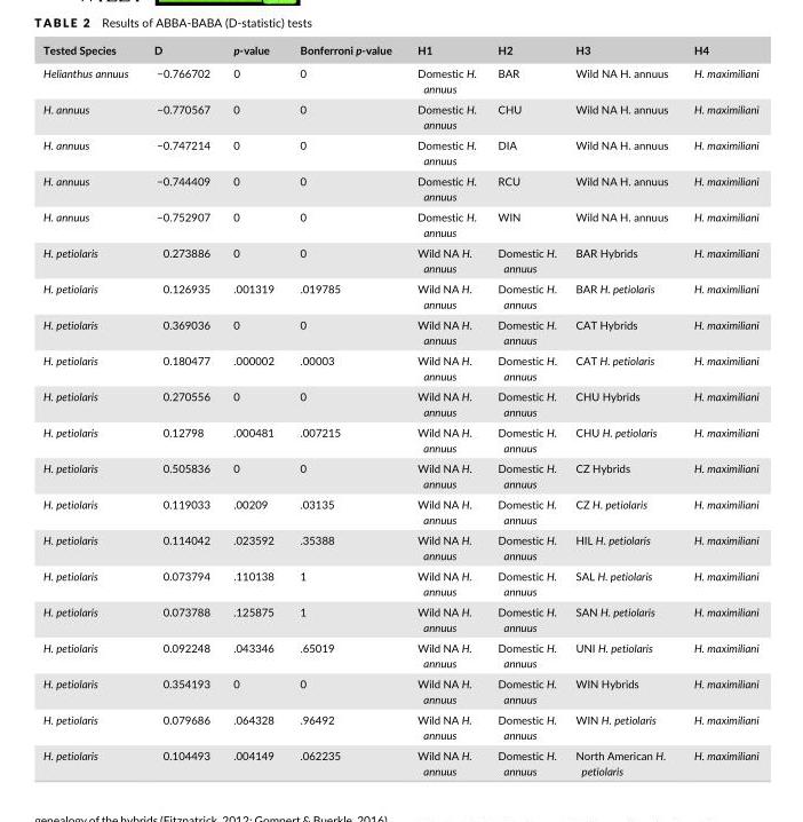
<table><thead><tr><td>Tested Species</td><td>D</td><td>p- value</td><td>Bonferroni p- value</td><td>H1</td><td>H2</td><td>H3</td><td>H4</td></tr></thead><tbody><tr><td>Helianthus annuus</td><td>−0.766702</td><td>0</td><td>0</td><td>Domestic H. annuus</td><td>BAR</td><td>Wild NA H. annuus</td><td>H. maximiliani</td></tr><tr><td>H. annuus</td><td>−0.770567</td><td>0</td><td>0</td><td>Domestic H. annuus</td><td>CHU</td><td>Wild NA H. annuus</td><td>H. maximiliani</td></tr><tr><td>H. annuus</td><td>−0.747214</td><td>0</td><td>0</td><td>Domestic H. annuus</td><td>DIA</td><td>Wild NA H. annuus</td><td>H. maximiliani</td></tr><tr><td>H. annuus</td><td>−0.744409</td><td>0</td><td>0</td><td>Domestic H. annuus</td><td>RCU</td><td>Wild NA H. annuus</td><td>H. maximiliani</td></tr><tr><td>H. annuus</td><td>−0.752907</td><td>0</td><td>0</td><td>Domestic H. annuus</td><td>WIN</td><td>Wild NA H. annuus</td><td>H. maximiliani</td></tr><tr><td>H. petiolaris</td><td>0.273886</td><td>0</td><td>0</td><td>Wild NA H. annuus</td><td>Domestic H. annuus</td><td>BAR Hybrids</td><td>H. maximiliani</td></tr><tr><td>H. petiolaris</td><td>0.126935</td><td>.001319</td><td>.019785</td><td>Wild NA H. annuus</td><td>Domestic H. annuus</td><td>BAR H. petiolaris</td><td>H. maximiliani</td></tr><tr><td>H. petiolaris</td><td>0.369036</td><td>0</td><td>0</td><td>Wild NA H. annuus</td><td>Domestic H. annuus</td><td>CAT Hybrids</td><td>H. maximiliani</td></tr><tr><td>H. petiolaris</td><td>0.180477</td><td>.000002</td><td>.00003</td><td>Wild NA H. annuus</td><td>Domestic H. annuus</td><td>CAT H. petiolaris</td><td>H. maximiliani</td></tr><tr><td>H. petiolaris</td><td>0.270556</td><td>0</td><td>0</td><td>Wild NA H. annuus</td><td>Domestic H. annuus</td><td>CHU Hybrids</td><td>H. maximiliani</td></tr><tr><td>H. petiolaris</td><td>0.12798</td><td>.000481</td><td>.007215</td><td>Wild NA H. annuus</td><td>Domestic H. annuus</td><td>CHU H. petiolaris</td><td>H. maximiliani</td></tr><tr><td>H. petiolaris</td><td>0.505836</td><td>0</td><td>0</td><td>Wild NA H. annuus</td><td>Domestic H. annuus</td><td>CZ Hybrids</td><td>H. maximiliani</td></tr><tr><td>H. petiolaris</td><td>0.119033</td><td>.00209</td><td>.03135</td><td>Wild NA H. annuus</td><td>Domestic H. annuus</td><td>CZ H. petiolaris</td><td>H. maximiliani</td></tr><tr><td>H. petiolaris</td><td>0.114042</td><td>.023592</td><td>.35388</td><td>Wild NA H. annuus</td><td>Domestic H. annuus</td><td>HIL H. petiolaris</td><td>H. maximiliani</td></tr><tr><td>H. petiolaris</td><td>0.073794</td><td>.110138</td><td>1</td><td>Wild NA H. annuus</td><td>Domestic H. annuus</td><td>SAL H. petiolaris</td><td>H. maximiliani</td></tr><tr><td>H. petiolaris</td><td>0.073788</td><td>.125875</td><td>1</td><td>Wild NA H. annuus</td><td>Domestic H. annuus</td><td>SAN H. petiolaris</td><td>H. maximiliani</td></tr><tr><td>H. petiolaris</td><td>0.092248</td><td>.043346</td><td>.65019</td><td>Wild NA H. annuus</td><td>Domestic H. annuus</td><td>UNI H. petiolaris</td><td>H. maximiliani</td></tr><tr><td>H. petiolaris</td><td>0.354193</td><td>0</td><td>0</td><td>Wild NA H. annuus</td><td>Domestic H. annuus</td><td>WIN Hybrids</td><td>H. maximiliani</td></tr><tr><td>H. petiolaris</td><td>0.079686</td><td>.064328</td><td>.96492</td><td>Wild NA H. annuus</td><td>Domestic H. annuus</td><td>WIN H. petiolaris</td><td>H. maximiliani</td></tr><tr><td>H. petiolaris</td><td>0.104493</td><td>.004149</td><td>.062235</td><td>Wild NA H. annuus</td><td>Domestic H. annuus</td><td>North American H. petiolaris</td><td>H. maximiliani</td></tr></tbody></table>